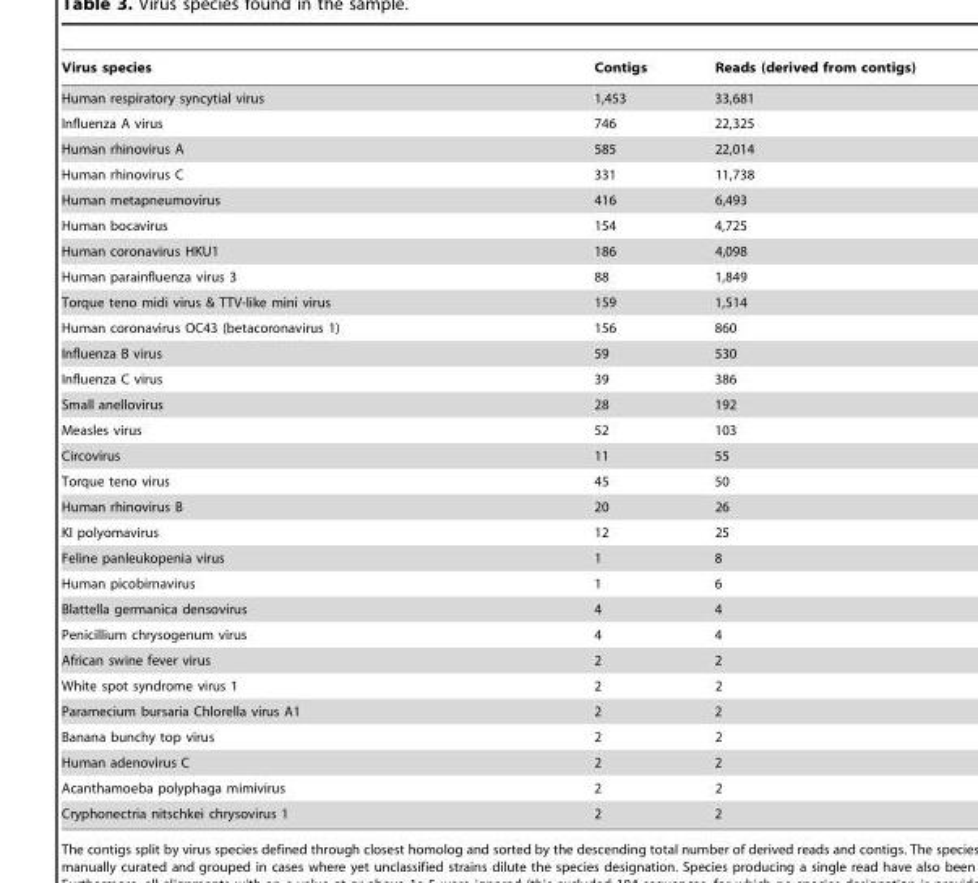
<table><thead><tr><td>Virus species</td><td>Contigs</td><td>Reads (derived from contigs)</td></tr></thead><tbody><tr><td>Human respiratory syncytial virus</td><td>1,453</td><td>33,681</td></tr><tr><td>Influenza A virus</td><td>746</td><td>22,325</td></tr><tr><td>Human rhinovirus A</td><td>585</td><td>22,014</td></tr><tr><td>Human rhinovirus C</td><td>331</td><td>11,738</td></tr><tr><td>Human metapneumovirus</td><td>416</td><td>6,493</td></tr><tr><td>Human bocavirus</td><td>154</td><td>4,725</td></tr><tr><td>Human coronavirus HKU1</td><td>186</td><td>4,098</td></tr><tr><td>Human parainfluenza virus 3</td><td>88</td><td>1,849</td></tr><tr><td>Torque teno midi virus &amp; TTV-like mini virus</td><td>159</td><td>1,514</td></tr><tr><td>Human coronavirus OC43 (betacoronavirus 1)</td><td>156</td><td>860</td></tr><tr><td>Influenza B virus</td><td>59</td><td>530</td></tr><tr><td>Influenza C virus</td><td>39</td><td>386</td></tr><tr><td>Small anellovirus</td><td>28</td><td>192</td></tr><tr><td>Measles virus</td><td>52</td><td>103</td></tr><tr><td>Circovirus</td><td>11</td><td>55</td></tr><tr><td>Torque teno virus</td><td>45</td><td>50</td></tr><tr><td>Human rhinovirus B</td><td>20</td><td>26</td></tr><tr><td>KI polyomavirus</td><td>12</td><td>25</td></tr><tr><td>Feline panleukopenia virus</td><td>1</td><td>8</td></tr><tr><td>Human picobirnavirus</td><td>1</td><td>6</td></tr><tr><td>Blattella germanica densovirus</td><td>4</td><td>4</td></tr><tr><td>Penicillium chrysogenum virus</td><td>4</td><td>4</td></tr><tr><td>African swine fever virus</td><td>2</td><td>2</td></tr><tr><td>White spot syndrome virus 1</td><td>2</td><td>2</td></tr><tr><td>Paramecium bursaria Chlorella virus A1</td><td>2</td><td>2</td></tr><tr><td>Banana bunchy top virus</td><td>2</td><td>2</td></tr><tr><td>Human adenovirus C</td><td>2</td><td>2</td></tr><tr><td>Acanthamoeba polyphaga mimivirus</td><td>2</td><td>2</td></tr><tr><td>Cryphonectria nitschkei chrysovirus 1</td><td>2</td><td>2</td></tr></tbody></table>